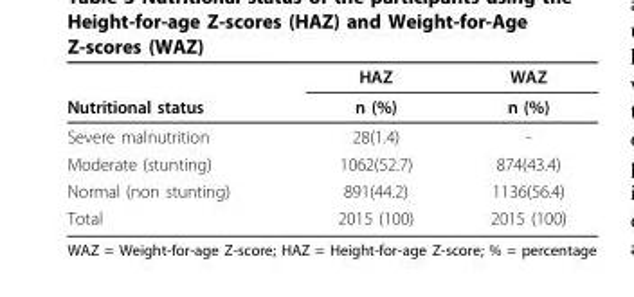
<table><thead><tr><td rowspan="2">Nutritional status</td><td rowspan="2">HAZ n (%)</td><td rowspan="2">WAZ n (%)</td></tr><tr></tr></thead><tbody><tr><td>Severe malnutrition</td><td>28(1.4)</td><td>-</td></tr><tr><td>Moderate (stunting)</td><td>1062(52.7)</td><td>874(43.4)</td></tr><tr><td>Normal (non stunting)</td><td>891(44.2)</td><td>1136(56.4)</td></tr><tr><td>Total</td><td>2015 (100)</td><td>2015 (100)</td></tr></tbody></table>